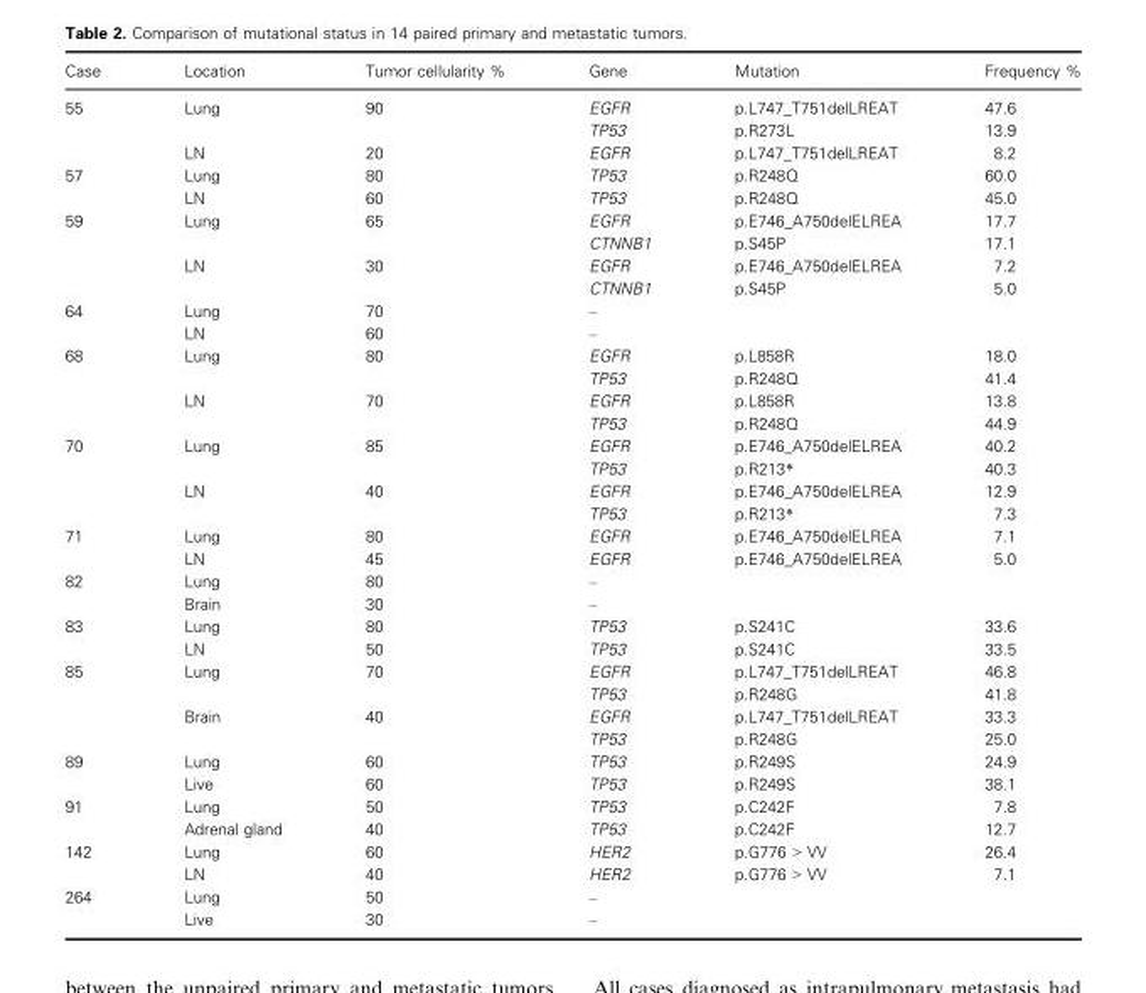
<table><thead><tr><td>Case</td><td>Location</td><td>Tumor cellularity %</td><td>Gene</td><td>Mutation</td><td>Frequency %</td></tr></thead><tbody><tr><td rowspan="3">55</td><td rowspan="2">Lung</td><td rowspan="2">90</td><td>EGFR</td><td>p.L747_T751delLREAT</td><td>47.6</td></tr><tr><td>TP53</td><td>p.R273L</td><td>13.9</td></tr><tr><td>LN</td><td>20</td><td>EGFR</td><td>p.L747_T751delLREAT</td><td>8.2</td></tr><tr><td rowspan="2">57</td><td>Lung</td><td>80</td><td>TP53</td><td>p.R248Q</td><td>60.0</td></tr><tr><td>LN</td><td>60</td><td>TP53</td><td>p.R248Q</td><td>45.0</td></tr><tr><td rowspan="4">59</td><td rowspan="2">Lung</td><td rowspan="2">65</td><td>EGFR</td><td>p.E746_A750delELREA</td><td>17.7</td></tr><tr><td>CTNNB1</td><td>p.S45P</td><td>17.1</td></tr><tr><td rowspan="2">LN</td><td rowspan="2">30</td><td>EGFR</td><td>p.E746_A750delELREA</td><td>7.2</td></tr><tr><td>CTNNB1</td><td>p.S45P</td><td>5.0</td></tr><tr><td rowspan="2">64</td><td>Lung</td><td>70</td><td>–</td><td></td><td></td></tr><tr><td>LN</td><td>60</td><td>–</td><td></td><td></td></tr><tr><td rowspan="4">68</td><td rowspan="2">Lung</td><td rowspan="2">80</td><td>EGFR</td><td>p.L858R</td><td>18.0</td></tr><tr><td>TP53</td><td>p.R248Q</td><td>41.4</td></tr><tr><td rowspan="2">LN</td><td rowspan="2">70</td><td>EGFR</td><td>p.L858R</td><td>13.8</td></tr><tr><td>TP53</td><td>p.R248Q</td><td>44.9</td></tr><tr><td rowspan="4">70</td><td rowspan="2">Lung</td><td rowspan="2">85</td><td>EGFR</td><td>p.E746_A750delELREA</td><td>40.2</td></tr><tr><td>TP53</td><td>p.R213*</td><td>40.3</td></tr><tr><td rowspan="2">LN</td><td rowspan="2">40</td><td>EGFR</td><td>p.E746_A750delELREA</td><td>12.9</td></tr><tr><td>TP53</td><td>p.R213*</td><td>7.3</td></tr><tr><td rowspan="2">71</td><td>Lung</td><td>80</td><td>EGFR</td><td>p.E746_A750delELREA</td><td>7.1</td></tr><tr><td>LN</td><td>45</td><td>EGFR</td><td>p.E746_A750delELREA</td><td>5.0</td></tr><tr><td rowspan="2">82</td><td>Lung</td><td>80</td><td>–</td><td></td><td></td></tr><tr><td>Brain</td><td>30</td><td>–</td><td></td><td></td></tr><tr><td rowspan="2">83</td><td>Lung</td><td>80</td><td>TP53</td><td>p.S241C</td><td>33.6</td></tr><tr><td>LN</td><td>50</td><td>TP53</td><td>p.S241C</td><td>33.5</td></tr><tr><td rowspan="4">85</td><td rowspan="2">Lung</td><td rowspan="2">70</td><td>EGFR</td><td>p.L747_T751delLREAT</td><td>46.8</td></tr><tr><td>TP53</td><td>p.R248G</td><td>41.8</td></tr><tr><td rowspan="2">Brain</td><td rowspan="2">40</td><td>EGFR</td><td>p.L747_T751delLREAT</td><td>33.3</td></tr><tr><td>TP53</td><td>p.R248G</td><td>25.0</td></tr><tr><td rowspan="2">89</td><td>Lung</td><td>60</td><td>TP53</td><td>p.R249S</td><td>24.9</td></tr><tr><td>Live</td><td>60</td><td>TP53</td><td>p.R249S</td><td>38.1</td></tr><tr><td rowspan="2">91</td><td>Lung</td><td>50</td><td>TP53</td><td>p.C242F</td><td>7.8</td></tr><tr><td>Adrenal gland</td><td>40</td><td>TP53</td><td>p.C242F</td><td>12.7</td></tr><tr><td rowspan="2">142</td><td>Lung</td><td>60</td><td>HER2</td><td>p.G776 &gt; VV</td><td>26.4</td></tr><tr><td>LN</td><td>40</td><td>HER2</td><td>p.G776 &gt; VV</td><td>7.1</td></tr><tr><td rowspan="2">264</td><td>Lung</td><td>50</td><td>–</td><td></td><td></td></tr><tr><td>Live</td><td>30</td><td>–</td><td></td><td></td></tr></tbody></table>